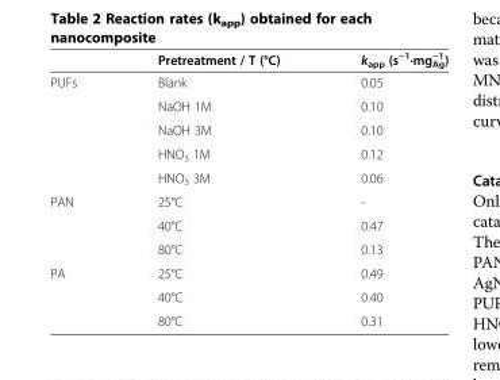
<table><thead><tr><td></td><td>Pretreatment / T (°C)</td><td>k<sub>app</sub> (s<sup>−1</sup>·mg<sub>Ag</sub> <sup>−1</sup>)</td></tr></thead><tbody><tr><td rowspan="5">PUFs</td><td>Blank</td><td>0.05</td></tr><tr><td>NaOH 1M</td><td>0.10</td></tr><tr><td>NaOH 3M</td><td>0.10</td></tr><tr><td>HNO<sub>3</sub> 1M</td><td>0.12</td></tr><tr><td>HNO<sub>3</sub> 3M</td><td>0.06</td></tr><tr><td rowspan="3">PAN</td><td>25°C</td><td>-</td></tr><tr><td>40°C</td><td>0.47</td></tr><tr><td>80°C</td><td>0.13</td></tr><tr><td rowspan="3">PA</td><td>25°C</td><td>0.49</td></tr><tr><td>40°C</td><td>0.40</td></tr><tr><td>80°C</td><td>0.31</td></tr></tbody></table>